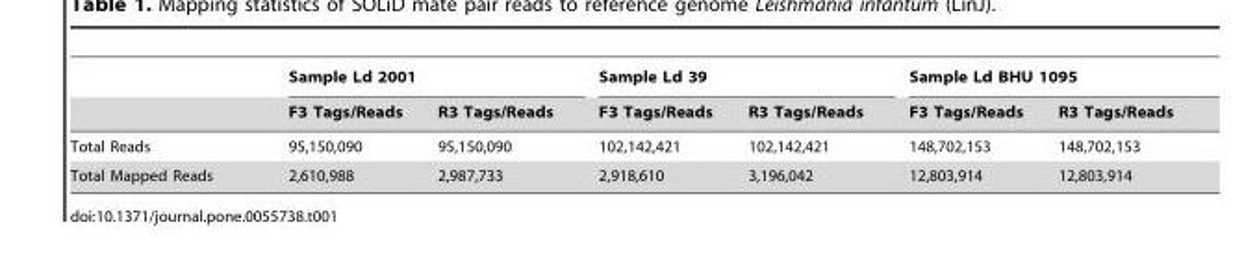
<table><thead><tr><td rowspan="2"></td><td colspan="2">Sample Ld 2001</td><td colspan="2">Sample Ld 39</td><td colspan="2">Sample Ld BHU 1095</td></tr><tr><td>F3 Tags/Reads</td><td>R3 Tags/Reads</td><td>F3 Tags/Reads</td><td>R3 Tags/Reads</td><td>F3 Tags/Reads</td><td>R3 Tags/Reads</td></tr></thead><tbody><tr><td>Total Reads</td><td>95,150,090</td><td>95,150,090</td><td>102,142,421</td><td>102,142,421</td><td>148,702,153</td><td>148,702,153</td></tr><tr><td>Total Mapped Reads</td><td>2,610,988</td><td>2,987,733</td><td>2,918,610</td><td>3,196,042</td><td>12,803,914</td><td>12,803,914</td></tr></tbody></table>